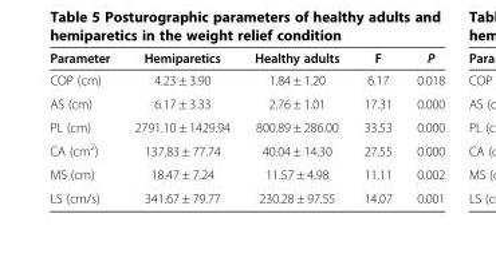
<table><thead><tr><td>Parameter</td><td>Hemiparetics</td><td>Healthy adults</td><td>F</td><td>P</td></tr></thead><tbody><tr><td>COP (cm)</td><td>4.23 ± 3.90</td><td>1.84 ± 1.20</td><td>6.17</td><td>0.018</td></tr><tr><td>AS (cm)</td><td>6.17 ± 3.33</td><td>2.76 ± 1.01</td><td>17.31</td><td>0.000</td></tr><tr><td>PL (cm)</td><td>2791.10 ± 1429.94</td><td>800.89 ± 286.00</td><td>33.53</td><td>0.000</td></tr><tr><td>CA (cm<sup>2</sup>)</td><td>137.83 ± 77.74</td><td>40.04 ± 14.30</td><td>27.55</td><td>0.000</td></tr><tr><td>MS (cm)</td><td>18.47 ± 7.24</td><td>11.57 ± 4.98</td><td>11.11</td><td>0.002</td></tr><tr><td>LS (cm/s)</td><td>341.67 ± 79.77</td><td>230.28 ± 97.55</td><td>14.07</td><td>0.001</td></tr></tbody></table>